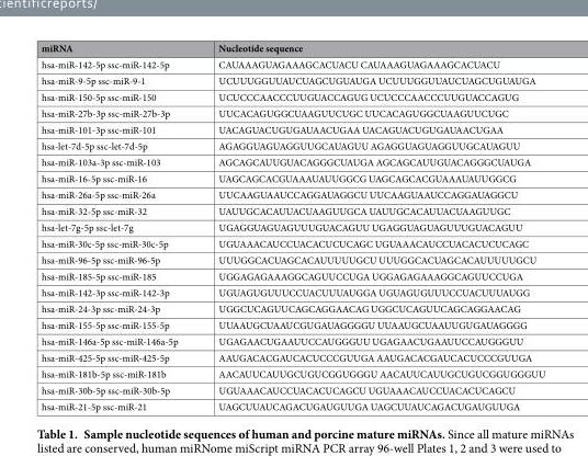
<table><thead><tr><td>miRNA</td><td>Nucleotide sequence</td></tr></thead><tbody><tr><td>hsa-miR-142-5p ssc-miR-142-5p</td><td>CAUAAAGUAGAAAGCACUACU CAUAAAGUAGAAAGCACUACU</td></tr><tr><td>hsa-miR-9-5p ssc-miR-9-1</td><td>UCUUUGGUUAUCUAGCUGUAUGA UCUUUGGUUAUCUAGCUGUAUGA</td></tr><tr><td>hsa-miR-150-5p ssc-miR-150</td><td>UCUCCCAACCCUUGUACCAGUG UCUCCCAACCCUUGUACCAGUG</td></tr><tr><td>hsa-miR-27b-3p ssc-miR-27b-3p</td><td>UUCACAGUGGCUAAGUUCUGC UUCACAGUGGCUAAGUUCUGC</td></tr><tr><td>hsa-miR-101-3p ssc-miR-101</td><td>UACAGUACUGUGAUAACUGAA UACAGUACUGUGAUAACUGAA</td></tr><tr><td>hsa-let-7d-5p ssc-let-7d-5p</td><td>AGAGGUAGUAGGUUGCAUAGUU AGAGGUAGUAGGUUGCAUAGUU</td></tr><tr><td>hsa-miR-103a-3p ssc-miR-103</td><td>AGCAGCAUUGUACAGGGCUAUGA AGCAGCAUUGUACAGGGCUAUGA</td></tr><tr><td>hsa-miR-16-5p ssc-miR-16</td><td>UAGCAGCACGUAAAUAUUGGCG UAGCAGCACGUAAAUAUUGGCG</td></tr><tr><td>hsa-miR-26a-5p ssc-miR-26a</td><td>UUCAAGUAAUCCAGGAUAGGCU UUCAAGUAAUCCAGGAUAGGCU</td></tr><tr><td>hsa-miR-32-5p ssc-miR-32</td><td>UAUUGCACAUUACUAAGUUGCA UAUUGCACAUUACUAAGUUGC</td></tr><tr><td>hsa-let-7g-5p ssc-let-7g</td><td>UGAGGUAGUAGUUUGUACAGUU UGAGGUAGUAGUUUGUACAGUU</td></tr><tr><td>hsa-miR-30c-5p ssc-miR-30c-5p</td><td>UGUAAACAUCCUACACUCUCAGC UGUAAACAUCCUACACUCUCAGC</td></tr><tr><td>hsa-miR-96-5p ssc-miR-96-5p</td><td>UUUGGCACUAGCACAUUUUUGCU UUUGGCACUAGCACAUUUUUGCU</td></tr><tr><td>hsa-miR-185-5p ssc-miR-185</td><td>UGGAGAGAAAGGCAGUUCCUGA UGGAGAGAAAGGCAGUUCCUGA</td></tr><tr><td>hsa-miR-142-3p ssc-miR-142-3p</td><td>UGUAGUGUUUCCUACUUUAUGGA UGUAGUGUUUCCUACUUUAUGG</td></tr><tr><td>hsa-miR-24-3p ssc-miR-24-3p</td><td>UGGCUCAGUUCAGCAGGAACAG UGGCUCAGUUCAGCAGGAACAG</td></tr><tr><td>hsa-miR-155-5p ssc-miR-155-5p</td><td>UUAAUGCUAAUCGUGAUAGGGGU UUAAUGCUAAUUGUGAUAGGGG</td></tr><tr><td>hsa-miR-146a-5p ssc-miR-146a-5p</td><td>UGAGAACUGAAUUCCAUGGGUU UGAGAACUGAAUUCCAUGGGUU</td></tr><tr><td>hsa-miR-425-5p ssc-miR-425-5p</td><td>AAUGACACGAUCACUCCCGUUGA AAUGACACGAUCACUCCCGUUGA</td></tr><tr><td>hsa-miR-181b-5p ssc-miR-181b</td><td>AACAUUCAUUGCUGUCGGUGGGU AACAUUCAUUGCUGUCGGUGGGUU</td></tr><tr><td>hsa-miR-30b-5p ssc-miR-30b-5p</td><td>UGUAAACAUCCUACACUCAGCU UGUAAACAUCCUACACUCAGCU</td></tr><tr><td>hsa-miR-21-5p ssc-miR-21</td><td>UAGCUUAUCAGACUGAUGUUGA UAGCUUAUCAGACUGAUGUUGA</td></tr></tbody></table>